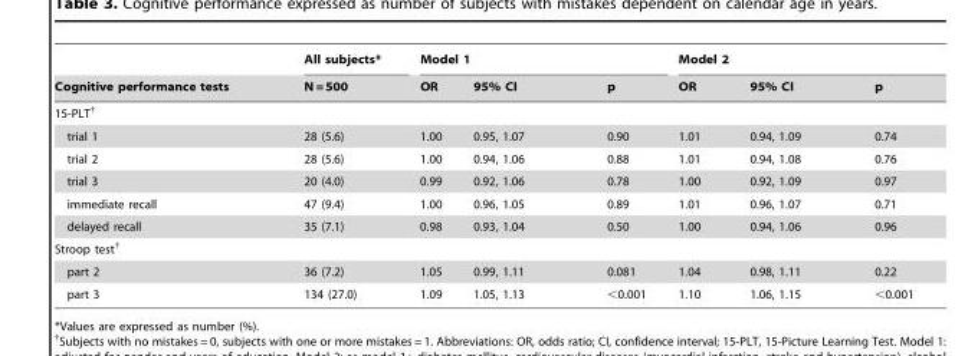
<table><thead><tr><td rowspan="2">Cognitive performance tests</td><td rowspan="2">All subjects* N = 500</td><td colspan="3">Model 1</td><td colspan="3">Model 2</td></tr><tr><td>OR</td><td>95% CI</td><td>p</td><td>OR</td><td>95% CI</td><td>p</td></tr></thead><tbody><tr><td colspan="8">15-PLT†</td></tr><tr><td>trial 1</td><td>28 (5.6)</td><td>1.00</td><td>0.95, 1.07</td><td>0.90</td><td>1.01</td><td>0.94, 1.09</td><td>0.74</td></tr><tr><td>trial 2</td><td>28 (5.6)</td><td>1.00</td><td>0.94, 1.06</td><td>0.88</td><td>1.01</td><td>0.94, 1.08</td><td>0.76</td></tr><tr><td>trial 3</td><td>20 (4.0)</td><td>0.99</td><td>0.92, 1.06</td><td>0.78</td><td>1.00</td><td>0.92, 1.09</td><td>0.97</td></tr><tr><td>immediate recall</td><td>47 (9.4)</td><td>1.00</td><td>0.96, 1.05</td><td>0.89</td><td>1.01</td><td>0.96, 1.07</td><td>0.71</td></tr><tr><td>delayed recall</td><td>35 (7.1)</td><td>0.98</td><td>0.93, 1.04</td><td>0.50</td><td>1.00</td><td>0.94, 1.06</td><td>0.96</td></tr><tr><td colspan="8">Stroop test†</td></tr><tr><td>part 2</td><td>36 (7.2)</td><td>1.05</td><td>0.99, 1.11</td><td>0.081</td><td>1.04</td><td>0.98, 1.11</td><td>0.22</td></tr><tr><td>part 3</td><td>134 (27.0)</td><td>1.09</td><td>1.05, 1.13</td><td>&lt;0.001</td><td>1.10</td><td>1.06, 1.15</td><td>&lt;0.001</td></tr></tbody></table>